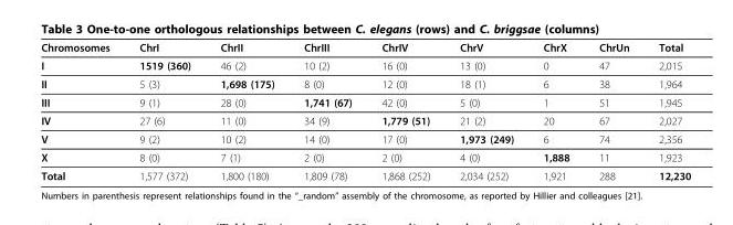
<table><thead><tr><td>Chromosomes</td><td>ChrI</td><td>ChrII</td><td>ChrIII</td><td>ChrIV</td><td>ChrV</td><td>ChrX</td><td>ChrUn</td><td>Total</td></tr></thead><tbody><tr><td>I</td><td>1519 (360)</td><td>46 (2)</td><td>10 (2)</td><td>16 (0)</td><td>13 (0)</td><td>0</td><td>47</td><td>2,015</td></tr><tr><td>II</td><td>5 (3)</td><td>1,698 (175)</td><td>8 (0)</td><td>12 (0)</td><td>18 (1)</td><td>6</td><td>38</td><td>1,964</td></tr><tr><td>III</td><td>9 (1)</td><td>28 (0)</td><td>1,741 (67)</td><td>42 (0)</td><td>5 (0)</td><td>1</td><td>51</td><td>1,945</td></tr><tr><td>IV</td><td>27 (6)</td><td>11 (0)</td><td>34 (9)</td><td>1,779 (51)</td><td>21 (2)</td><td>20</td><td>67</td><td>2,027</td></tr><tr><td>V</td><td>9 (2)</td><td>10 (2)</td><td>14 (0)</td><td>17 (0)</td><td>1,973 (249)</td><td>6</td><td>74</td><td>2,356</td></tr><tr><td>X</td><td>8 (0)</td><td>7 (1)</td><td>2 (0)</td><td>2 (0)</td><td>4 (0)</td><td>1,888</td><td>11</td><td>1,923</td></tr><tr><td>Total</td><td>1,577 (372)</td><td>1,800 (180)</td><td>1,809 (78)</td><td>1,868 (252)</td><td>2,034 (252)</td><td>1,921</td><td>288</td><td>12,230</td></tr></tbody></table>